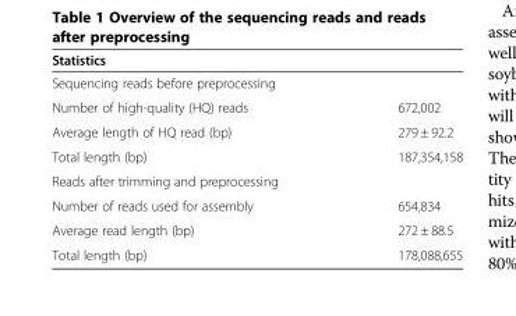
<table><thead><tr><td>Statistics</td><td></td></tr></thead><tbody><tr><td colspan="2">Sequencing reads before preprocessing</td></tr><tr><td>Number of high-quality (HQ) reads</td><td>672,002</td></tr><tr><td>Average length of HQ read (bp)</td><td>279 ± 92.2</td></tr><tr><td>Total length (bp)</td><td>187,354,158</td></tr><tr><td colspan="2">Reads after trimming and preprocessing</td></tr><tr><td>Number of reads used for assembly</td><td>654,834</td></tr><tr><td>Average read length (bp)</td><td>272 ± 88.5</td></tr><tr><td>Total length (bp)</td><td>178,088,655</td></tr></tbody></table>